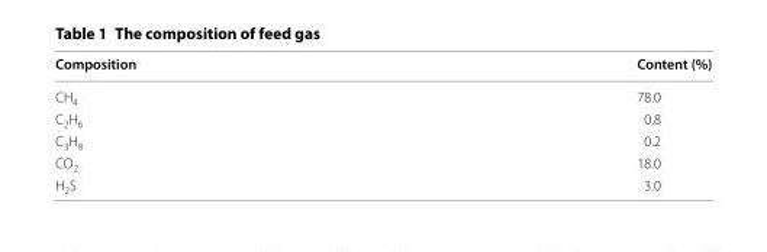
<table><thead><tr><td>Composition</td><td>Content (%)</td></tr></thead><tbody><tr><td>CH<sub>4</sub></td><td>78.0</td></tr><tr><td>C<sub>2</sub>H<sub>6</sub></td><td>0.8</td></tr><tr><td>C<sub>3</sub>H<sub>8</sub></td><td>0.2</td></tr><tr><td>CO<sub>2</sub></td><td>18.0</td></tr><tr><td>H<sub>2</sub>S</td><td>3.0</td></tr></tbody></table>